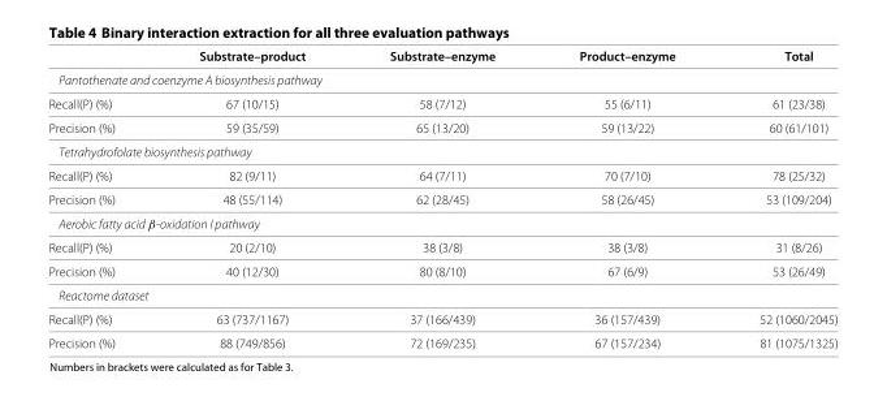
<table><thead><tr><td></td><td>Substrate–product</td><td>Substrate–enzyme</td><td>Product–enzyme</td><td>Total</td></tr></thead><tbody><tr><td colspan="5">Pantothenate and coenzyme A biosynthesis pathway</td></tr><tr><td>Recall(P) (%)</td><td>67 (10/15)</td><td>58 (7/12)</td><td>55 (6/11)</td><td>61 (23/38)</td></tr><tr><td>Precision (%)</td><td>59 (35/59)</td><td>65 (13/20)</td><td>59 (13/22)</td><td>60 (61/101)</td></tr><tr><td colspan="5">Tetrahydrofolate biosynthesis pathway</td></tr><tr><td>Recall(P) (%)</td><td>82 (9/11)</td><td>64 (7/11)</td><td>70 (7/10)</td><td>78 (25/32)</td></tr><tr><td>Precision (%)</td><td>48 (55/114)</td><td>62 (28/45)</td><td>58 (26/45)</td><td>53 (109/204)</td></tr><tr><td colspan="5">Aerobic fatty acid β-oxidation I pathway</td></tr><tr><td>Recall(P) (%)</td><td>20 (2/10)</td><td>38 (3/8)</td><td>38 (3/8)</td><td>31 (8/26)</td></tr><tr><td>Precision (%)</td><td>40 (12/30)</td><td>80 (8/10)</td><td>67 (6/9)</td><td>53 (26/49)</td></tr><tr><td colspan="5">Reactome dataset</td></tr><tr><td>Recall(P) (%)</td><td>63 (737/1167)</td><td>37 (166/439)</td><td>36 (157/439)</td><td>52 (1060/2045)</td></tr><tr><td>Precision (%)</td><td>88 (749/856)</td><td>72 (169/235)</td><td>67 (157/234)</td><td>81 (1075/1325)</td></tr></tbody></table>